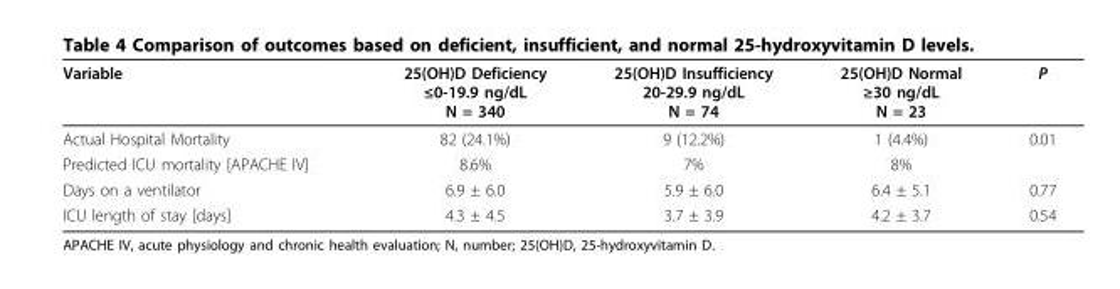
<table><thead><tr><td>Variable</td><td>25(OH)D Deficiency ≤0-19.9 ng/dL N = 340</td><td>25(OH)D Insufficiency 20-29.9 ng/dL N = 74</td><td>25(OH)D Normal ≥30 ng/dL N = 23</td><td>P</td></tr></thead><tbody><tr><td>Actual Hospital Mortality</td><td>82 (24.1%)</td><td>9 (12.2%)</td><td>1 (4.4%)</td><td>0.01</td></tr><tr><td>Predicted ICU mortality [APACHE IV]</td><td>8.6%</td><td>7%</td><td>8%</td><td></td></tr><tr><td>Days on a ventilator</td><td>6.9 ± 6.0</td><td>5.9 ± 6.0</td><td>6.4 ± 5.1</td><td>0.77</td></tr><tr><td>ICU length of stay [days]</td><td>4.3 ± 4.5</td><td>3.7 ± 3.9</td><td>4.2 ± 3.7</td><td>0.54</td></tr></tbody></table>